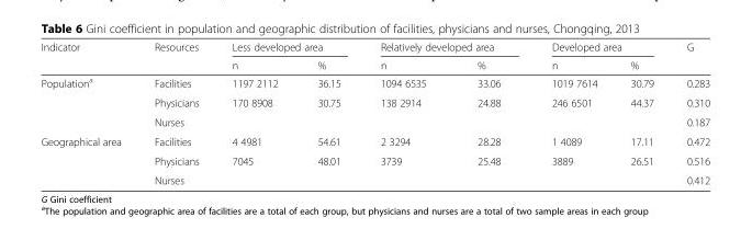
<table><thead><tr><td rowspan="2">Indicator</td><td rowspan="2">Resources</td><td colspan="2">Less developed area</td><td colspan="2">Relatively developed area</td><td colspan="2">Developed area</td><td rowspan="2">G</td></tr><tr><td>n</td><td>%</td><td>n</td><td>%</td><td>n</td><td>%</td></tr></thead><tbody><tr><td rowspan="3">Population<sup>a</sup></td><td>Facilities</td><td>1197 2112</td><td>36.15</td><td>1094 6535</td><td>33.06</td><td>1019 7614</td><td>30.79</td><td>0.283</td></tr><tr><td>Physicians</td><td rowspan="2">170 8908</td><td rowspan="2">30.75</td><td rowspan="2">138 2914</td><td rowspan="2">24.88</td><td rowspan="2">246 6501</td><td rowspan="2">44.37</td><td>0.310</td></tr><tr><td>Nurses</td><td>0.187</td></tr><tr><td rowspan="3">Geographical area</td><td>Facilities</td><td>4 4981</td><td>54.61</td><td>2 3294</td><td>28.28</td><td>1 4089</td><td>17.11</td><td>0.472</td></tr><tr><td>Physicians</td><td rowspan="2">7045</td><td rowspan="2">48.01</td><td rowspan="2">3739</td><td rowspan="2">25.48</td><td rowspan="2">3889</td><td rowspan="2">26.51</td><td>0.516</td></tr><tr><td>Nurses</td><td>0.412</td></tr></tbody></table>